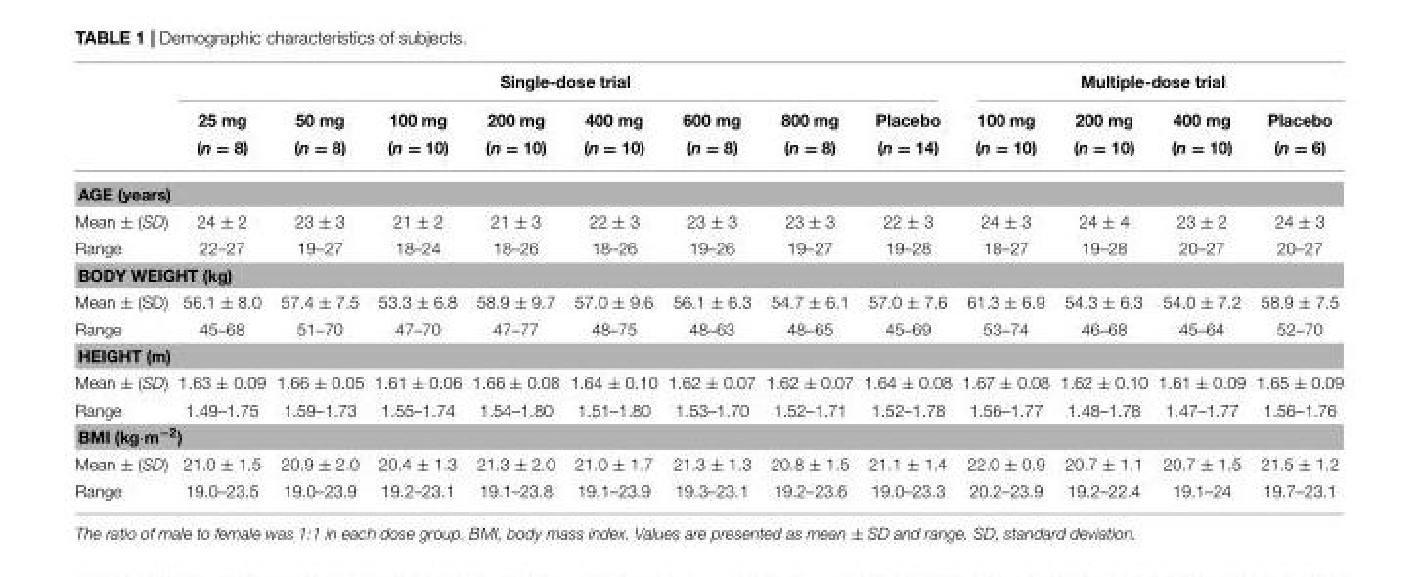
<table><thead><tr><td rowspan="2"></td><td colspan="8">Single-dose trial</td><td colspan="4">Multiple-dose trial</td></tr><tr><td>25 mg (n = 8)</td><td>50 mg (n = 8)</td><td>100 mg (n = 10)</td><td>200 mg (n = 10)</td><td>400 mg (n = 10)</td><td>600 mg (n = 8)</td><td>800 mg (n = 8)</td><td>Placebo (n = 14)</td><td>100 mg (n = 10)</td><td>200 mg (n = 10)</td><td>400 mg (n = 10)</td><td>Placebo (n = 6)</td></tr></thead><tbody><tr><td colspan="13">AGE (years)</td></tr><tr><td>Mean ± (SD)</td><td>24 ± 2</td><td>23 ± 3</td><td>21 ± 2</td><td>21 ± 3</td><td>22 ± 3</td><td>23 ± 3</td><td>23 ± 3</td><td>22 ± 3</td><td>24 ± 3</td><td>24 ± 4</td><td>23 ± 2</td><td>24 ± 3</td></tr><tr><td>Range</td><td>22–27</td><td>19–27</td><td>18–24</td><td>18–26</td><td>18–26</td><td>19–26</td><td>19–27</td><td>19–28</td><td>18–27</td><td>19–28</td><td>20–27</td><td>20–27</td></tr><tr><td colspan="13">BODY WEIGHT (kg)</td></tr><tr><td>Mean ± (SD)</td><td>56.1 ± 8.0</td><td>57.4 ± 7.5</td><td>53.3 ± 6.8</td><td>58.9 ± 9.7</td><td>57.0 ± 9.6</td><td>56.1 ± 6.3</td><td>54.7 ± 6.1</td><td>57.0 ± 7.6</td><td>61.3 ± 6.9</td><td>54.3 ± 6.3</td><td>54.0 ± 7.2</td><td>58.9 ± 7.5</td></tr><tr><td>Range</td><td>45–68</td><td>51–70</td><td>47–70</td><td>47–77</td><td>48–75</td><td>48–63</td><td>48–65</td><td>45–69</td><td>53–74</td><td>46–68</td><td>45–64</td><td>52–70</td></tr><tr><td colspan="13">HEIGHT (m)</td></tr><tr><td>Mean ± (SD)</td><td>1.63 ± 0.09</td><td>1.66 ± 0.05</td><td>1.61 ± 0.06</td><td>1.66 ± 0.08</td><td>1.64 ± 0.10</td><td>1.62 ± 0.07</td><td>1.62 ± 0.07</td><td>1.64 ± 0.08</td><td>1.67 ± 0.08</td><td>1.62 ± 0.10</td><td>1.61 ± 0.09</td><td>1.65 ± 0.09</td></tr><tr><td>Range</td><td>1.49–1.75</td><td>1.59–1.73</td><td>1.55–1.74</td><td>1.54–1.80</td><td>1.51–1.80</td><td>1.53–1.70</td><td>1.52–1.71</td><td>1.52–1.78</td><td>1.56–1.77</td><td>1.48–1.78</td><td>1.47–1.77</td><td>1.56–1.76</td></tr><tr><td colspan="13">BMI (kg·m<sup>−2</sup>)</td></tr><tr><td>Mean ± (SD)</td><td>21.0 ± 1.5</td><td>20.9 ± 2.0</td><td>20.4 ± 1.3</td><td>21.3 ± 2.0</td><td>21.0 ± 1.7</td><td>21.3 ± 1.3</td><td>20.8 ± 1.5</td><td>21.1 ± 1.4</td><td>22.0 ± 0.9</td><td>20.7 ± 1.1</td><td>20.7 ± 1.5</td><td>21.5 ± 1.2</td></tr><tr><td>Range</td><td>19.0–23.5</td><td>19.0–23.9</td><td>19.2–23.1</td><td>19.1–23.8</td><td>19.1–23.9</td><td>19.3–23.1</td><td>19.2–23.6</td><td>19.0–23.3</td><td>20.2–23.9</td><td>19.2–22.4</td><td>19.1–24</td><td>19.7–23.1</td></tr></tbody></table>